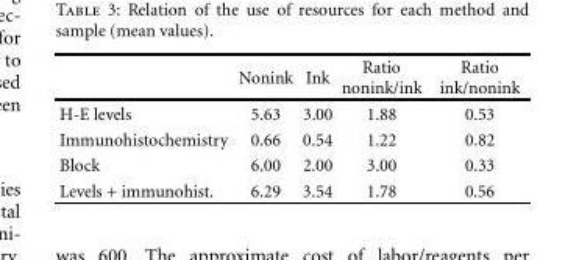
<table><thead><tr><td></td><td>Nonink</td><td>Ink</td><td>Ratio nonink/ink</td><td>Ratio ink/nonink</td></tr></thead><tbody><tr><td>H-E levels</td><td>5.63</td><td>3.00</td><td>1.88</td><td>0.53</td></tr><tr><td>Immunohistochemistry</td><td>0.66</td><td>0.54</td><td>1.22</td><td>0.82</td></tr><tr><td>Block</td><td>6.00</td><td>2.00</td><td>3.00</td><td>0.33</td></tr><tr><td>Levels + immunohist.</td><td>6.29</td><td>3.54</td><td>1.78</td><td>0.56</td></tr></tbody></table>